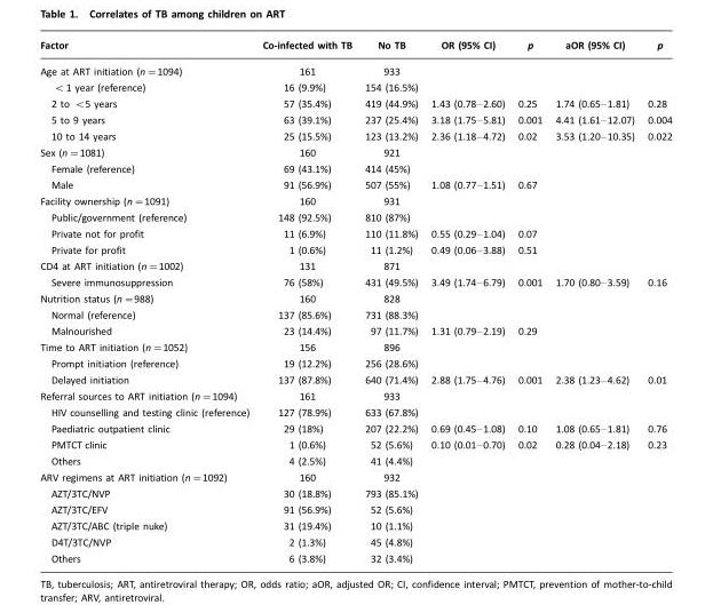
<table><thead><tr><td>Factor</td><td>Co-infected with TB</td><td>No TB</td><td>OR (95% CI)</td><td>p</td><td>aOR (95% CI)</td><td>p</td></tr></thead><tbody><tr><td>Age at ART initiation (n=1094)</td><td>161</td><td>933</td><td></td><td></td><td></td><td></td></tr><tr><td>&lt;1 year (reference)</td><td>16 (9.9%)</td><td>154 (16.5%)</td><td></td><td></td><td></td><td></td></tr><tr><td>2 to &lt;5 years</td><td>57 (35.4%)</td><td>419 (44.9%)</td><td>1.43 (0.78–2.60)</td><td>0.25</td><td>1.74 (0.65–1.81)</td><td>0.28</td></tr><tr><td>5 to 9 years</td><td>63 (39.1%)</td><td>237 (25.4%)</td><td>3.18 (1.75–5.81)</td><td>0.001</td><td>4.41 (1.61–12.07)</td><td>0.004</td></tr><tr><td>10 to 14 years</td><td>25 (15.5%)</td><td>123 (13.2%)</td><td>2.36 (1.18–4.72)</td><td>0.02</td><td>3.53 (1.20–10.35)</td><td>0.022</td></tr><tr><td>Sex (n=1081)</td><td>160</td><td>921</td><td></td><td></td><td></td><td></td></tr><tr><td>Female (reference)</td><td>69 (43.1%)</td><td>414 (45%)</td><td></td><td></td><td></td><td></td></tr><tr><td>Male</td><td>91 (56.9%)</td><td>507 (55%)</td><td>1.08 (0.77–1.51)</td><td>0.67</td><td></td><td></td></tr><tr><td>Facility ownership (n=1091)</td><td>160</td><td>931</td><td></td><td></td><td></td><td></td></tr><tr><td>Public/government (reference)</td><td>148 (92.5%)</td><td>810 (87%)</td><td></td><td></td><td></td><td></td></tr><tr><td>Private not for profit</td><td>11 (6.9%)</td><td>110 (11.8%)</td><td>0.55 (0.29–1.04)</td><td>0.07</td><td></td><td></td></tr><tr><td>Private for profit</td><td>1 (0.6%)</td><td>11 (1.2%)</td><td>0.49 (0.06–3.88)</td><td>0.51</td><td></td><td></td></tr><tr><td>CD4 at ART initiation (n=1002)</td><td>131</td><td>871</td><td></td><td></td><td></td><td></td></tr><tr><td>Severe immunosuppression</td><td>76 (58%)</td><td>431 (49.5%)</td><td>3.49 (1.74–6.79)</td><td>0.001</td><td>1.70 (0.80–3.59)</td><td>0.16</td></tr><tr><td>Nutrition status (n=988)</td><td>160</td><td>828</td><td></td><td></td><td></td><td></td></tr><tr><td>Normal (reference)</td><td>137 (85.6%)</td><td>731 (88.3%)</td><td></td><td></td><td></td><td></td></tr><tr><td>Malnourished</td><td>23 (14.4%)</td><td>97 (11.7%)</td><td>1.31 (0.79–2.19)</td><td>0.29</td><td></td><td></td></tr><tr><td>Time to ART initiation (n=1052)</td><td>156</td><td>896</td><td></td><td></td><td></td><td></td></tr><tr><td>Prompt initiation (reference)</td><td>19 (12.2%)</td><td>256 (28.6%)</td><td></td><td></td><td></td><td></td></tr><tr><td>Delayed initiation</td><td>137 (87.8%)</td><td>640 (71.4%)</td><td>2.88 (1.75–4.76)</td><td>0.001</td><td>2.38 (1.23–4.62)</td><td>0.01</td></tr><tr><td>Referral sources to ART initiation (n=1094)</td><td>161</td><td>933</td><td></td><td></td><td></td><td></td></tr><tr><td>HIV counselling and testing clinic (reference)</td><td>127 (78.9%)</td><td>633 (67.8%)</td><td></td><td></td><td></td><td></td></tr><tr><td>Paediatric outpatient clinic</td><td>29 (18%)</td><td>207 (22.2%)</td><td>0.69 (0.45–1.08)</td><td>0.10</td><td>1.08 (0.65–1.81)</td><td>0.76</td></tr><tr><td>PMTCT clinic</td><td>1 (0.6%)</td><td>52 (5.6%)</td><td>0.10 (0.01–0.70)</td><td>0.02</td><td>0.28 (0.04–2.18)</td><td>0.23</td></tr><tr><td>Others</td><td>4 (2.5%)</td><td>41 (4.4%)</td><td></td><td></td><td></td><td></td></tr><tr><td>ARV regimens at ART initiation (n=1092)</td><td>160</td><td>932</td><td></td><td></td><td></td><td></td></tr><tr><td>AZT/3TC/NVP</td><td>30 (18.8%)</td><td>793 (85.1%)</td><td></td><td></td><td></td><td></td></tr><tr><td>AZT/3TC/EFV</td><td>91 (56.9%)</td><td>52 (5.6%)</td><td></td><td></td><td></td><td></td></tr><tr><td>AZT/3TC/ABC (triple nuke)</td><td>31 (19.4%)</td><td>10 (1.1%)</td><td></td><td></td><td></td><td></td></tr><tr><td>D4T/3TC/NVP</td><td>2 (1.3%)</td><td>45 (4.8%)</td><td></td><td></td><td></td><td></td></tr><tr><td>Others</td><td>6 (3.8%)</td><td>32 (3.4%)</td><td></td><td></td><td></td><td></td></tr></tbody></table>